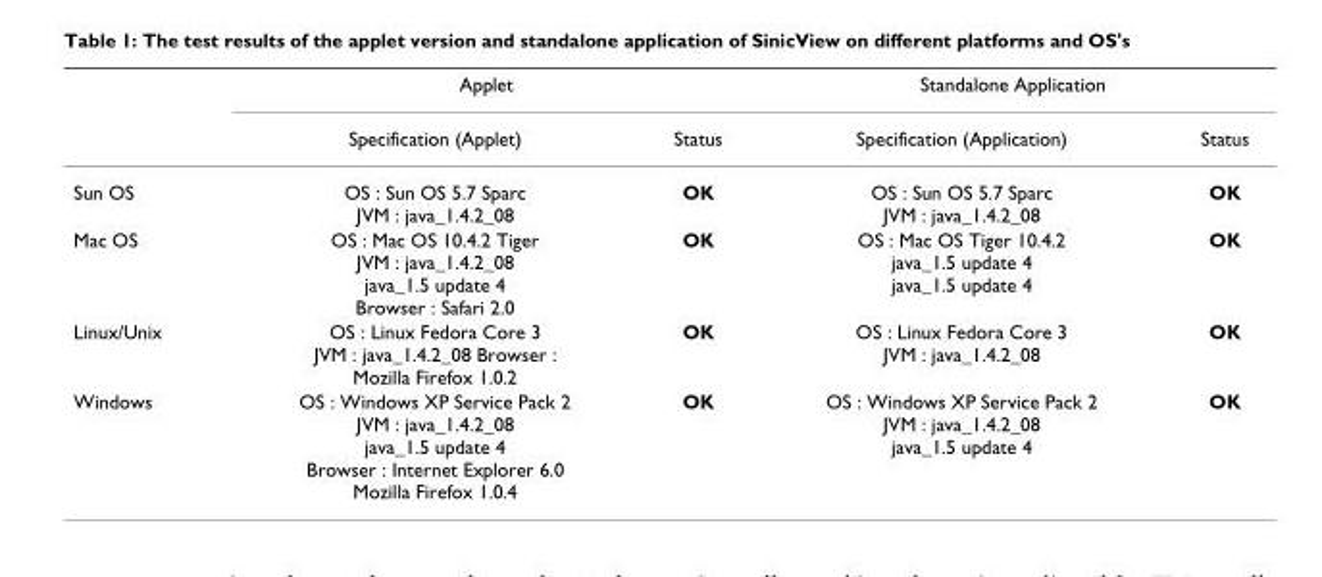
<table><thead><tr><td rowspan="2"></td><td colspan="2">Applet</td><td colspan="2">Standalone Application</td></tr><tr><td>Specification (Applet)</td><td>Status</td><td>Specification (Application)</td><td>Status</td></tr></thead><tbody><tr><td>Sun OS</td><td>OS : Sun OS 5.7 Sparc JVM : java_1.4.2_08</td><td>OK</td><td>OS : Sun OS 5.7 Sparc JVM : java_1.4.2_08</td><td>OK</td></tr><tr><td>Mac OS</td><td>OS : Mac OS 10.4.2 Tiger JVM : java_1.4.2_08 java_1.5 update 4 Browser : Safari 2.0</td><td>OK</td><td>OS : Mac OS Tiger 10.4.2 java_1.5 update 4 java_1.5 update 4</td><td>OK</td></tr><tr><td>Linux/Unix</td><td>OS : Linux Fedora Core 3 JVM : java_1.4.2_08 Browser : Mozilla Firefox 1.0.2</td><td>OK</td><td>OS : Linux Fedora Core 3 JVM : java_1.4.2_08</td><td>OK</td></tr><tr><td>Windows</td><td>OS : Windows XP Service Pack 2 JVM : java_1.4.2_08 java_1.5 update 4 Browser : Internet Explorer 6.0 Mozilla Firefox 1.0.4</td><td>OK</td><td>OS : Windows XP Service Pack 2 JVM : java_1.4.2_08 java_1.5 update 4</td><td>OK</td></tr></tbody></table>